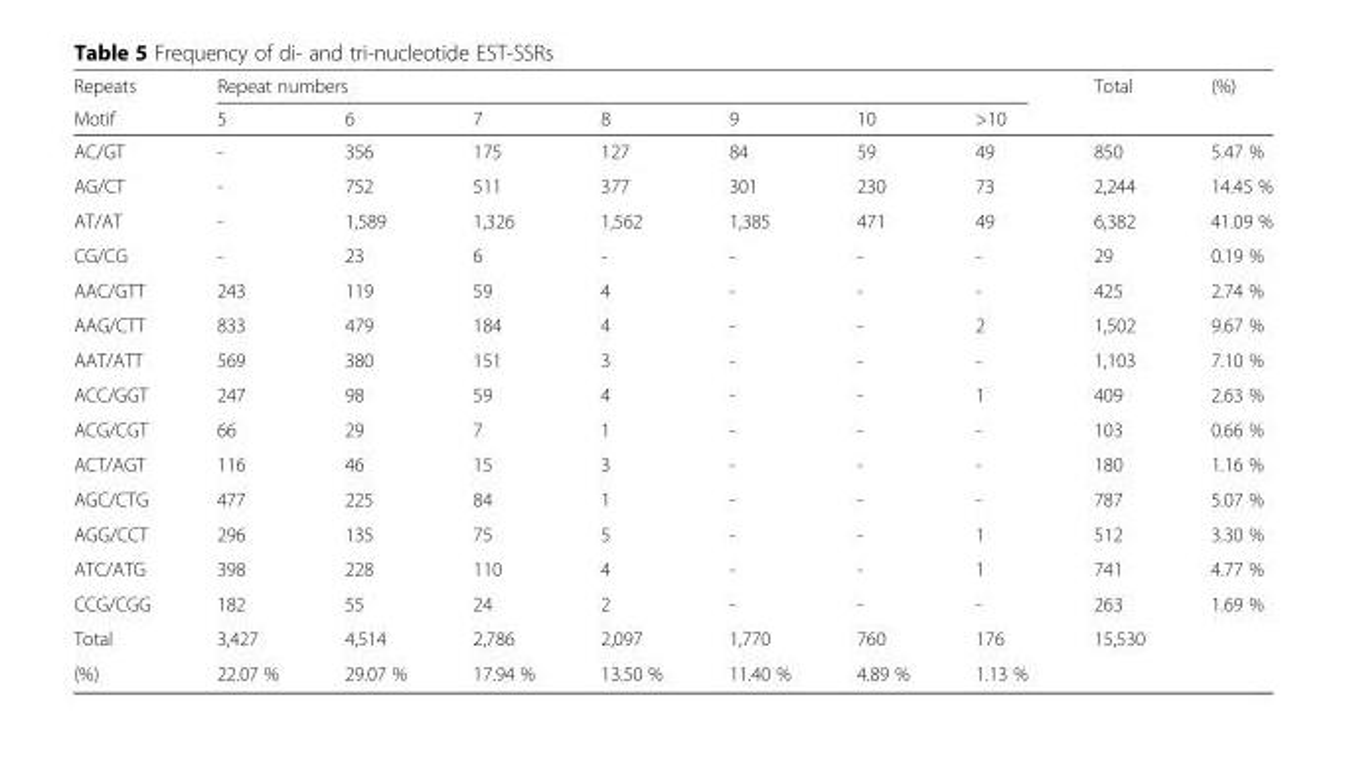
<table><thead><tr><td rowspan="2">Repeats Motif</td><td colspan="7">Repeat numbers</td><td rowspan="2">Total</td><td rowspan="2">(%)</td></tr><tr><td>5</td><td>6</td><td>7</td><td>8</td><td>9</td><td>10</td><td>&gt;10</td></tr></thead><tbody><tr><td>AC/GT</td><td>-</td><td>356</td><td>175</td><td>127</td><td>84</td><td>59</td><td>49</td><td>850</td><td>5.47 %</td></tr><tr><td>AG/CT</td><td>-</td><td>752</td><td>511</td><td>377</td><td>301</td><td>230</td><td>73</td><td>2,244</td><td>14.45 %</td></tr><tr><td>AT/AT</td><td>-</td><td>1,589</td><td>1,326</td><td>1,562</td><td>1,385</td><td>471</td><td>49</td><td>6,382</td><td>41.09 %</td></tr><tr><td>CG/CG</td><td>-</td><td>23</td><td>6</td><td>-</td><td>-</td><td>-</td><td>-</td><td>29</td><td>0.19 %</td></tr><tr><td>AAC/GTT</td><td>243</td><td>119</td><td>59</td><td>4</td><td>-</td><td>-</td><td>-</td><td>425</td><td>2.74 %</td></tr><tr><td>AAG/CTT</td><td>833</td><td>479</td><td>184</td><td>4</td><td>-</td><td>-</td><td>2</td><td>1,502</td><td>9.67 %</td></tr><tr><td>AAT/ATT</td><td>569</td><td>380</td><td>151</td><td>3</td><td>-</td><td>-</td><td>-</td><td>1,103</td><td>7.10 %</td></tr><tr><td>ACC/GGT</td><td>247</td><td>98</td><td>59</td><td>4</td><td>-</td><td>-</td><td>1</td><td>409</td><td>2.63 %</td></tr><tr><td>ACG/CGT</td><td>66</td><td>29</td><td>7</td><td>1</td><td>-</td><td>-</td><td>-</td><td>103</td><td>0.66 %</td></tr><tr><td>ACT/AGT</td><td>116</td><td>46</td><td>15</td><td>3</td><td>-</td><td>-</td><td>-</td><td>180</td><td>1.16 %</td></tr><tr><td>AGC/CTG</td><td>477</td><td>225</td><td>84</td><td>1</td><td>-</td><td>-</td><td>-</td><td>787</td><td>5.07 %</td></tr><tr><td>AGG/CCT</td><td>296</td><td>135</td><td>75</td><td>5</td><td>-</td><td>-</td><td>1</td><td>512</td><td>3.30 %</td></tr><tr><td>ATC/ATG</td><td>398</td><td>228</td><td>110</td><td>4</td><td>-</td><td>-</td><td>1</td><td>741</td><td>4.77 %</td></tr><tr><td>CCG/CGG</td><td>182</td><td>55</td><td>24</td><td>2</td><td>-</td><td>-</td><td>-</td><td>263</td><td>1.69 %</td></tr><tr><td>Total</td><td>3,427</td><td>4,514</td><td>2,786</td><td>2,097</td><td>1,770</td><td>760</td><td>176</td><td>15,530</td><td></td></tr><tr><td>(%)</td><td>22.07 %</td><td>29.07 %</td><td>17.94 %</td><td>13.50 %</td><td>11.40 %</td><td>4.89 %</td><td>1.13 %</td><td></td><td></td></tr></tbody></table>